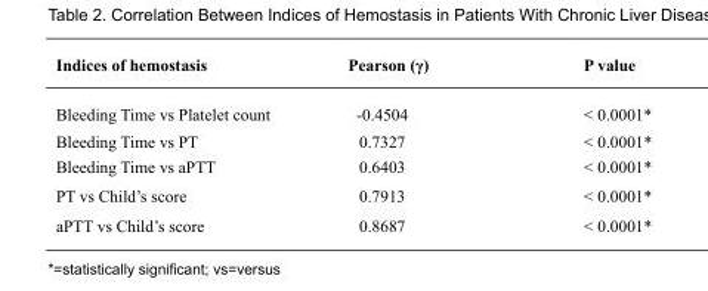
<table><thead><tr><td>Indices of hemostasis</td><td>Pearson (γ)</td><td>P value</td></tr></thead><tbody><tr><td>Bleeding Time vs Platelet count</td><td>-0.4504</td><td>&lt; 0.0001*</td></tr><tr><td>Bleeding Time vs PT</td><td>0.7327</td><td>&lt; 0.0001*</td></tr><tr><td>Bleeding Time vs aPTT</td><td>0.6403</td><td>&lt; 0.0001*</td></tr><tr><td>PT vs Child’s score</td><td>0.7913</td><td>&lt; 0.0001*</td></tr><tr><td>aPTT vs Child’s score</td><td>0.8687</td><td>&lt; 0.0001*</td></tr></tbody></table>